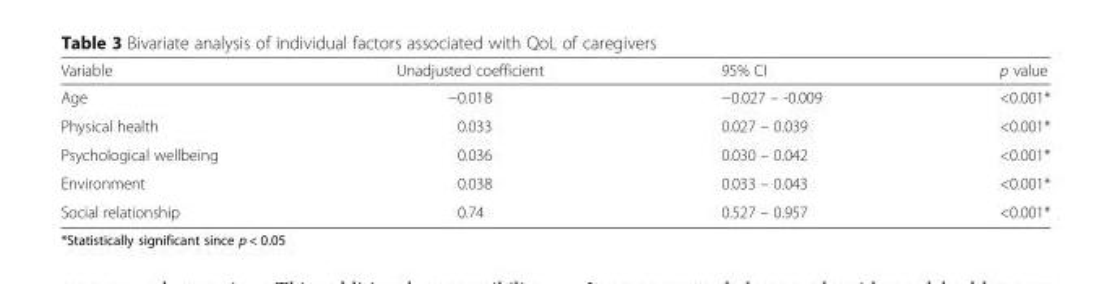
<table><thead><tr><td>Variable</td><td>Unadjusted coefficient</td><td>95% CI</td><td>p value</td></tr></thead><tbody><tr><td>Age</td><td>−0.018</td><td>−0.027 – -0.009</td><td>&lt;0.001*</td></tr><tr><td>Physical health</td><td>0.033</td><td>0.027 – 0.039</td><td>&lt;0.001*</td></tr><tr><td>Psychological wellbeing</td><td>0.036</td><td>0.030 – 0.042</td><td>&lt;0.001*</td></tr><tr><td>Environment</td><td>0.038</td><td>0.033 – 0.043</td><td>&lt;0.001*</td></tr><tr><td>Social relationship</td><td>0.74</td><td>0.527 – 0.957</td><td>&lt;0.001*</td></tr></tbody></table>